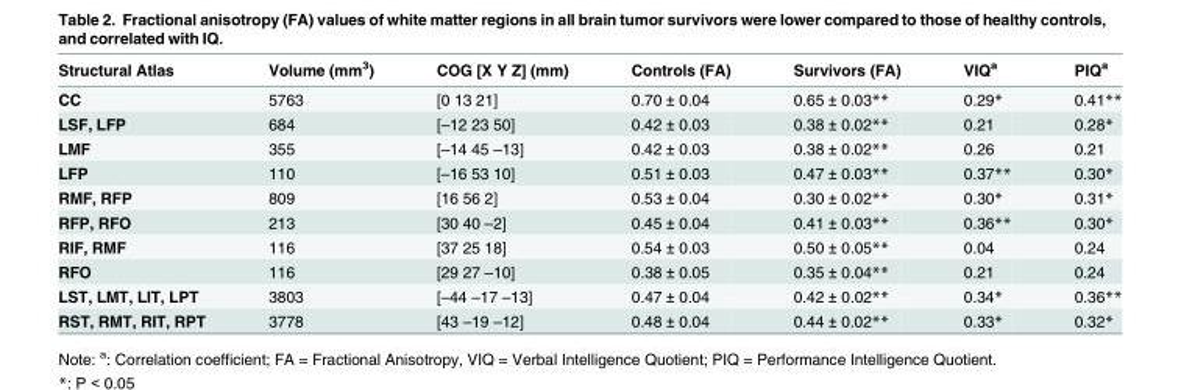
<table><thead><tr><td>Structural Atlas</td><td>Volume (mm<sup>3</sup>)</td><td>COG [X Y Z] (mm)</td><td>Controls (FA)</td><td>Survivors (FA)</td><td>VIQ<sup>a</sup></td><td>PIQ<sup>a</sup></td></tr></thead><tbody><tr><td>CC</td><td>5763</td><td>[0 13 21]</td><td>0.70 ± 0.04</td><td>0.65 ± 0.03**</td><td>0.29*</td><td>0.41**</td></tr><tr><td>LSF, LFP</td><td>684</td><td>[–12 23 50]</td><td>0.42 ± 0.03</td><td>0.38 ± 0.02**</td><td>0.21</td><td>0.28*</td></tr><tr><td>LMF</td><td>355</td><td>[–14 45 –13]</td><td>0.42 ± 0.03</td><td>0.38 ± 0.02**</td><td>0.26</td><td>0.21</td></tr><tr><td>LFP</td><td>110</td><td>[–16 53 10]</td><td>0.51 ± 0.03</td><td>0.47 ± 0.03**</td><td>0.37**</td><td>0.30*</td></tr><tr><td>RMF, RFP</td><td>809</td><td>[16 56 2]</td><td>0.53 ± 0.04</td><td>0.30 ± 0.02**</td><td>0.30*</td><td>0.31*</td></tr><tr><td>RFP, RFO</td><td>213</td><td>[30 40 –2]</td><td>0.45 ± 0.04</td><td>0.41 ± 0.03**</td><td>0.36**</td><td>0.30*</td></tr><tr><td>RIF, RMF</td><td>116</td><td>[37 25 18]</td><td>0.54 ± 0.03</td><td>0.50 ± 0.05**</td><td>0.04</td><td>0.24</td></tr><tr><td>RFO</td><td>116</td><td>[29 27 –10]</td><td>0.38 ± 0.05</td><td>0.35 ± 0.04**</td><td>0.21</td><td>0.24</td></tr><tr><td>LST, LMT, LIT, LPT</td><td>3803</td><td>[–44 –17 –13]</td><td>0.47 ± 0.04</td><td>0.42 ± 0.02**</td><td>0.34*</td><td>0.36**</td></tr><tr><td>RST, RMT, RIT, RPT</td><td>3778</td><td>[43 –19 –12]</td><td>0.48 ± 0.04</td><td>0.44 ± 0.02**</td><td>0.33*</td><td>0.32*</td></tr></tbody></table>